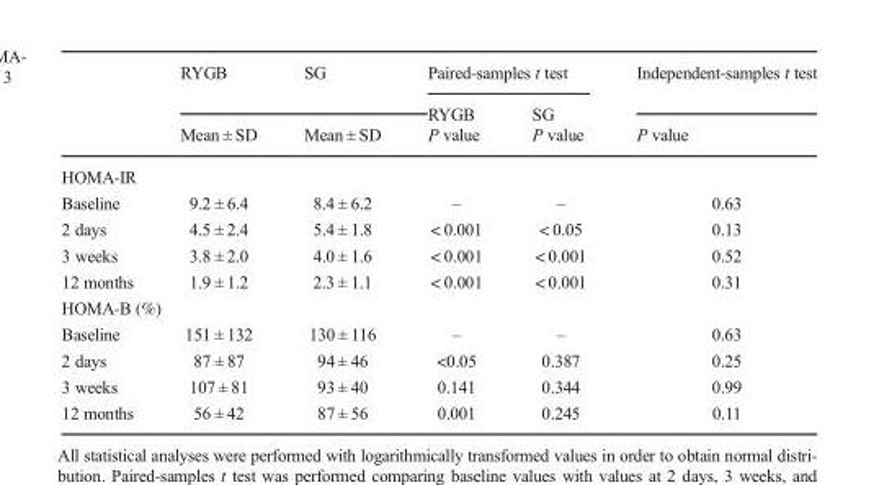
<table><thead><tr><td rowspan="3"></td><td rowspan="3">RYGB Mean ± SD</td><td rowspan="3">SG Mean ± SD</td><td colspan="2">Paired-samples t test</td><td rowspan="3">Independent-samples t test P value</td></tr><tr><td rowspan="2">RYGB P value</td><td rowspan="2">SG P value</td></tr><tr></tr></thead><tbody><tr><td colspan="6">HOMA-IR</td></tr><tr><td>Baseline</td><td>9.2 ± 6.4</td><td>8.4 ± 6.2</td><td>–</td><td>–</td><td>0.63</td></tr><tr><td>2 days</td><td>4.5 ± 2.4</td><td>5.4 ± 1.8</td><td>&lt; 0.001</td><td>&lt; 0.05</td><td>0.13</td></tr><tr><td>3 weeks</td><td>3.8 ± 2.0</td><td>4.0 ± 1.6</td><td>&lt; 0.001</td><td>&lt; 0.001</td><td>0.52</td></tr><tr><td>12 months</td><td>1.9 ± 1.2</td><td>2.3 ± 1.1</td><td>&lt; 0.001</td><td>&lt; 0.001</td><td>0.31</td></tr><tr><td colspan="6">HOMA-B (%)</td></tr><tr><td>Baseline</td><td>151 ± 132</td><td>130 ± 116</td><td>–</td><td>–</td><td>0.63</td></tr><tr><td>2 days</td><td>87 ± 87</td><td>94 ± 46</td><td>&lt;0.05</td><td>0.387</td><td>0.25</td></tr><tr><td>3 weeks</td><td>107 ± 81</td><td>93 ± 40</td><td>0.141</td><td>0.344</td><td>0.99</td></tr><tr><td>12 months</td><td>56 ± 42</td><td>87 ± 56</td><td>0.001</td><td>0.245</td><td>0.11</td></tr></tbody></table>